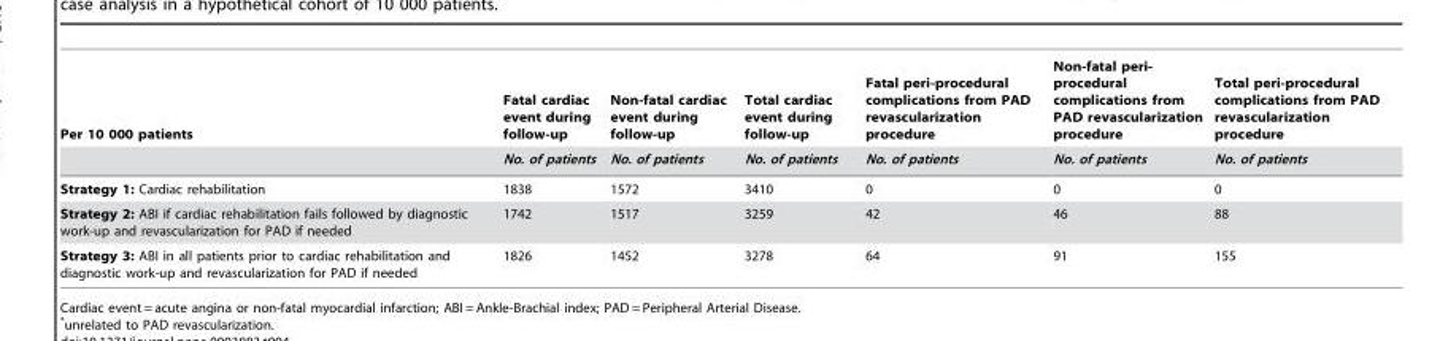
<table><thead><tr><td rowspan="2">Per 10 000 patients</td><td rowspan="2">Fatal cardiac event during follow-up No. of patients</td><td rowspan="2">Non-fatal cardiac event during follow-up No. of patients</td><td rowspan="2">Total cardiac event during follow-up No. of patients</td><td rowspan="2">Fatal peri-procedural complications from PAD revascularization procedure No. of patients</td><td rowspan="2">Non-fatal peri- procedural complications from PAD revascularization procedure No. of patients</td><td rowspan="2">Total peri-procedural complications from PAD revascularization procedure No. of patients</td></tr><tr></tr></thead><tbody><tr><td>Strategy 1: Cardiac rehabilitation</td><td>1838</td><td>1572</td><td>3410</td><td>0</td><td>0</td><td>0</td></tr><tr><td>Strategy 2: ABI if cardiac rehabilitation fails followed by diagnostic work-up and revascularization for PAD if needed</td><td>1742</td><td>1517</td><td>3259</td><td>42</td><td>46</td><td>88</td></tr><tr><td>Strategy 3: ABI in all patients prior to cardiac rehabilitation and diagnostic work-up and revascularization for PAD if needed</td><td>1826</td><td>1452</td><td>3278</td><td>64</td><td>91</td><td>155</td></tr></tbody></table>